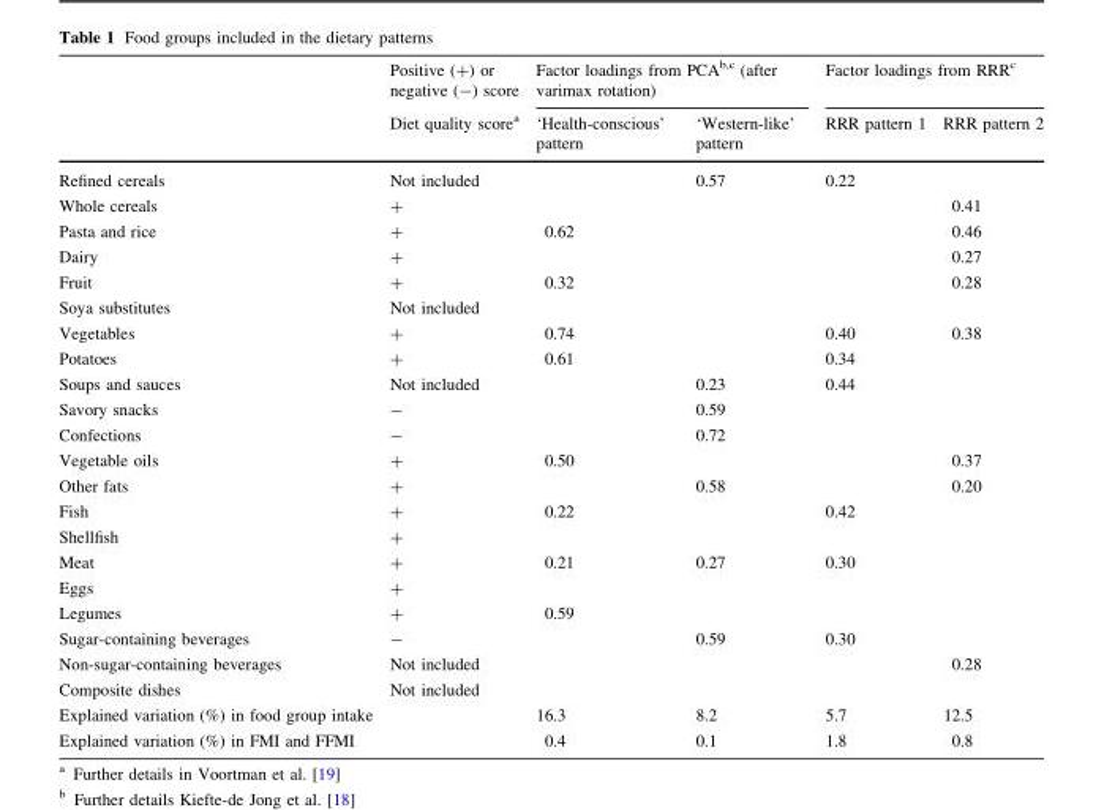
<table><thead><tr><td rowspan="2"></td><td rowspan="2">Positive (+) or negative (-) score Diet quality score<sup>a</sup></td><td colspan="2">Factor loadings from PCA<sup>b,c</sup> (after varimax rotation)</td><td colspan="2">Factor loadings from RRR<sup>c</sup></td></tr><tr><td>‘Health-conscious’ pattern</td><td>‘Western-like’ pattern</td><td>RRR pattern 1</td><td>RRR pattern 2</td></tr></thead><tbody><tr><td>Refined cereals</td><td>Not included</td><td></td><td>0.57</td><td>0.22</td><td></td></tr><tr><td>Whole cereals</td><td>+</td><td></td><td></td><td></td><td>0.41</td></tr><tr><td>Pasta and rice</td><td>+</td><td>0.62</td><td></td><td></td><td>0.46</td></tr><tr><td>Dairy</td><td>+</td><td></td><td></td><td></td><td>0.27</td></tr><tr><td>Fruit</td><td>+</td><td>0.32</td><td></td><td></td><td>0.28</td></tr><tr><td>Soya substitutes</td><td>Not included</td><td></td><td></td><td></td><td></td></tr><tr><td>Vegetables</td><td>+</td><td>0.74</td><td></td><td>0.40</td><td>0.38</td></tr><tr><td>Potatoes</td><td>+</td><td>0.61</td><td></td><td>0.34</td><td></td></tr><tr><td>Soups and sauces</td><td>Not included</td><td></td><td>0.23</td><td>0.44</td><td></td></tr><tr><td>Savory snacks</td><td>-</td><td></td><td>0.59</td><td></td><td></td></tr><tr><td>Confections</td><td>-</td><td></td><td>0.72</td><td></td><td></td></tr><tr><td>Vegetable oils</td><td>+</td><td>0.50</td><td></td><td></td><td>0.37</td></tr><tr><td>Other fats</td><td>+</td><td></td><td>0.58</td><td></td><td>0.20</td></tr><tr><td>Fish</td><td>+</td><td>0.22</td><td></td><td>0.42</td><td></td></tr><tr><td>Shellfish</td><td>+</td><td></td><td></td><td></td><td></td></tr><tr><td>Meat</td><td>+</td><td>0.21</td><td>0.27</td><td>0.30</td><td></td></tr><tr><td>Eggs</td><td>+</td><td></td><td></td><td></td><td></td></tr><tr><td>Legumes</td><td>+</td><td>0.59</td><td></td><td></td><td></td></tr><tr><td>Sugar-containing beverages</td><td>-</td><td></td><td>0.59</td><td>0.30</td><td></td></tr><tr><td>Non-sugar-containing beverages</td><td>Not included</td><td></td><td></td><td></td><td>0.28</td></tr><tr><td>Composite dishes</td><td>Not included</td><td></td><td></td><td></td><td></td></tr><tr><td>Explained variation (%) in food group intake</td><td></td><td>16.3</td><td>8.2</td><td>5.7</td><td>12.5</td></tr><tr><td>Explained variation (%) in FMI and FFMI</td><td></td><td>0.4</td><td>0.1</td><td>1.8</td><td>0.8</td></tr></tbody></table>